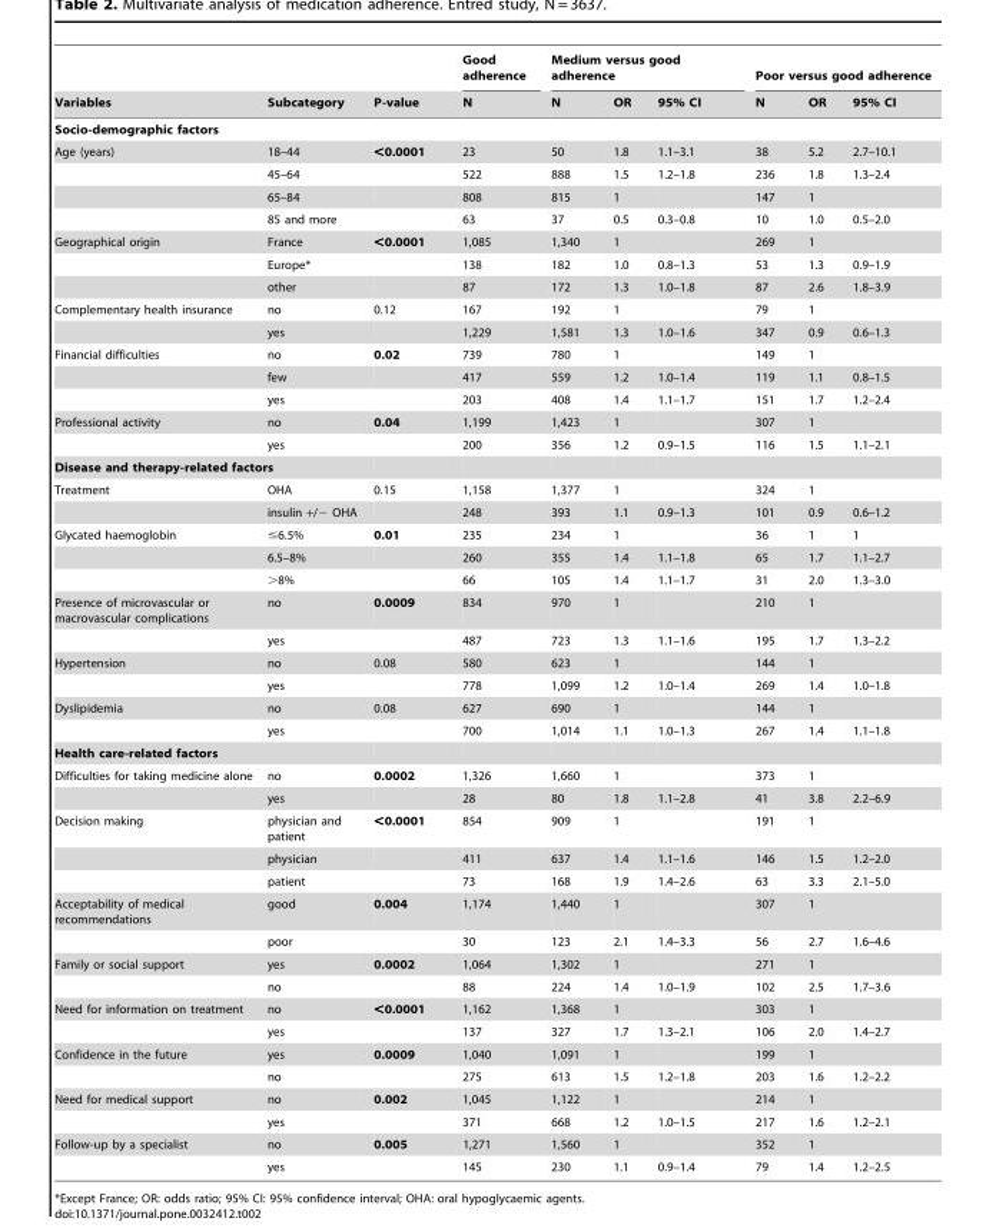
<table><thead><tr><td rowspan="2">Variables</td><td rowspan="2">Subcategory</td><td rowspan="2">P-value</td><td rowspan="2">Good adherence N</td><td colspan="3">Medium versus good adherence</td><td colspan="3">Poor versus good adherence</td></tr><tr><td>N</td><td>OR</td><td>95% CI</td><td>N</td><td>OR</td><td>95% CI</td></tr></thead><tbody><tr><td colspan="10">Socio-demographic factors</td></tr><tr><td rowspan="4">Age (years)</td><td>18–44</td><td>&lt;0.0001</td><td>23</td><td>50</td><td>1.8</td><td>1.1–3.1</td><td>38</td><td>5.2</td><td>2.7–10.1</td></tr><tr><td>45–64</td><td></td><td>522</td><td>888</td><td>1.5</td><td>1.2–1.8</td><td>236</td><td>1.8</td><td>1.3–2.4</td></tr><tr><td>65–84</td><td></td><td>808</td><td>815</td><td>1</td><td></td><td>147</td><td>1</td><td></td></tr><tr><td>85 and more</td><td></td><td>63</td><td>37</td><td>0.5</td><td>0.3–0.8</td><td>10</td><td>1.0</td><td>0.5–2.0</td></tr><tr><td rowspan="3">Geographical origin</td><td>France</td><td>&lt;0.0001</td><td>1,085</td><td>1,340</td><td>1</td><td></td><td>269</td><td>1</td><td></td></tr><tr><td>Europe*</td><td></td><td>138</td><td>182</td><td>1.0</td><td>0.8–1.3</td><td>53</td><td>1.3</td><td>0.9–1.9</td></tr><tr><td>other</td><td></td><td>87</td><td>172</td><td>1.3</td><td>1.0–1.8</td><td>87</td><td>2.6</td><td>1.8–3.9</td></tr><tr><td rowspan="2">Complementary health insurance</td><td>no</td><td>0.12</td><td>167</td><td>192</td><td>1</td><td></td><td>79</td><td>1</td><td></td></tr><tr><td>yes</td><td></td><td>1,229</td><td>1,581</td><td>1.3</td><td>1.0–1.6</td><td>347</td><td>0.9</td><td>0.6–1.3</td></tr><tr><td rowspan="3">Financial difficulties</td><td>no</td><td>0.02</td><td>739</td><td>780</td><td>1</td><td></td><td>149</td><td>1</td><td></td></tr><tr><td>few</td><td></td><td>417</td><td>559</td><td>1.2</td><td>1.0–1.4</td><td>119</td><td>1.1</td><td>0.8–1.5</td></tr><tr><td>yes</td><td></td><td>203</td><td>408</td><td>1.4</td><td>1.1–1.7</td><td>151</td><td>1.7</td><td>1.2–2.4</td></tr><tr><td rowspan="2">Professional activity</td><td>no</td><td>0.04</td><td>1,199</td><td>1,423</td><td>1</td><td></td><td>307</td><td>1</td><td></td></tr><tr><td>yes</td><td></td><td>200</td><td>356</td><td>1.2</td><td>0.9–1.5</td><td>116</td><td>1.5</td><td>1.1–2.1</td></tr><tr><td colspan="10">Disease and therapy-related factors</td></tr><tr><td rowspan="2">Treatment</td><td>OHA</td><td>0.15</td><td>1,158</td><td>1,377</td><td>1</td><td></td><td>324</td><td>1</td><td></td></tr><tr><td>insulin +/− OHA</td><td></td><td>248</td><td>393</td><td>1.1</td><td>0.9–1.3</td><td>101</td><td>0.9</td><td>0.6–1.2</td></tr><tr><td rowspan="3">Glycated haemoglobin</td><td>≤6.5%</td><td>0.01</td><td>235</td><td>234</td><td>1</td><td></td><td>36</td><td>1</td><td>1</td></tr><tr><td>6.5–8%</td><td></td><td>260</td><td>355</td><td>1.4</td><td>1.1–1.8</td><td>65</td><td>1.7</td><td>1.1–2.7</td></tr><tr><td>&gt;8%</td><td></td><td>66</td><td>105</td><td>1.4</td><td>1.1–1.7</td><td>31</td><td>2.0</td><td>1.3–3.0</td></tr><tr><td rowspan="2">Presence of microvascular or macrovascular complications</td><td>no</td><td>0.0009</td><td>834</td><td>970</td><td>1</td><td></td><td>210</td><td>1</td><td></td></tr><tr><td>yes</td><td></td><td>487</td><td>723</td><td>1.3</td><td>1.1–1.6</td><td>195</td><td>1.7</td><td>1.3–2.2</td></tr><tr><td rowspan="2">Hypertension</td><td>no</td><td>0.08</td><td>580</td><td>623</td><td>1</td><td></td><td>144</td><td>1</td><td></td></tr><tr><td>yes</td><td></td><td>778</td><td>1,099</td><td>1.2</td><td>1.0–1.4</td><td>269</td><td>1.4</td><td>1.0–1.8</td></tr><tr><td rowspan="2">Dyslipidemia</td><td>no</td><td>0.08</td><td>627</td><td>690</td><td>1</td><td></td><td>144</td><td>1</td><td></td></tr><tr><td>yes</td><td></td><td>700</td><td>1,014</td><td>1.1</td><td>1.0–1.3</td><td>267</td><td>1.4</td><td>1.1–1.8</td></tr><tr><td colspan="10">Health care-related factors</td></tr><tr><td rowspan="2">Difficulties for taking medicine alone</td><td>no</td><td>0.0002</td><td>1,326</td><td>1,660</td><td>1</td><td></td><td>373</td><td>1</td><td></td></tr><tr><td>yes</td><td></td><td>28</td><td>80</td><td>1.8</td><td>1.1–2.8</td><td>41</td><td>3.8</td><td>2.2–6.9</td></tr><tr><td rowspan="3">Decision making</td><td>physician and patient</td><td>&lt;0.0001</td><td>854</td><td>909</td><td>1</td><td></td><td>191</td><td>1</td><td></td></tr><tr><td>physician</td><td></td><td>411</td><td>637</td><td>1.4</td><td>1.1–1.6</td><td>146</td><td>1.5</td><td>1.2–2.0</td></tr><tr><td>patient</td><td></td><td>73</td><td>168</td><td>1.9</td><td>1.4–2.6</td><td>63</td><td>3.3</td><td>2.1–5.0</td></tr><tr><td rowspan="2">Acceptability of medical recommendations</td><td>good</td><td>0.004</td><td>1,174</td><td>1,440</td><td>1</td><td></td><td>307</td><td>1</td><td></td></tr><tr><td>poor</td><td></td><td>30</td><td>123</td><td>2.1</td><td>1.4–3.3</td><td>56</td><td>2.7</td><td>1.6–4.6</td></tr><tr><td rowspan="2">Family or social support</td><td>yes</td><td>0.0002</td><td>1,064</td><td>1,302</td><td>1</td><td></td><td>271</td><td>1</td><td></td></tr><tr><td>no</td><td></td><td>88</td><td>224</td><td>1.4</td><td>1.0–1.9</td><td>102</td><td>2.5</td><td>1.7–3.6</td></tr><tr><td rowspan="2">Need for information on treatment</td><td>no</td><td>&lt;0.0001</td><td>1,162</td><td>1,368</td><td>1</td><td></td><td>303</td><td>1</td><td></td></tr><tr><td>yes</td><td></td><td>137</td><td>327</td><td>1.7</td><td>1.3–2.1</td><td>106</td><td>2.0</td><td>1.4–2.7</td></tr><tr><td rowspan="2">Confidence in the future</td><td>yes</td><td>0.0009</td><td>1,040</td><td>1,091</td><td>1</td><td></td><td>199</td><td>1</td><td></td></tr><tr><td>no</td><td></td><td>275</td><td>613</td><td>1.5</td><td>1.2–1.8</td><td>203</td><td>1.6</td><td>1.2–2.2</td></tr><tr><td rowspan="2">Need for medical support</td><td>no</td><td>0.002</td><td>1,045</td><td>1,122</td><td>1</td><td></td><td>214</td><td>1</td><td></td></tr><tr><td>yes</td><td></td><td>371</td><td>668</td><td>1.2</td><td>1.0–1.5</td><td>217</td><td>1.6</td><td>1.2–2.1</td></tr><tr><td rowspan="2">Follow-up by a specialist</td><td>no</td><td>0.005</td><td>1,271</td><td>1,560</td><td>1</td><td></td><td>352</td><td>1</td><td></td></tr><tr><td>yes</td><td></td><td>145</td><td>230</td><td>1.1</td><td>0.9–1.4</td><td>79</td><td>1.4</td><td>1.2–2.5</td></tr></tbody></table>